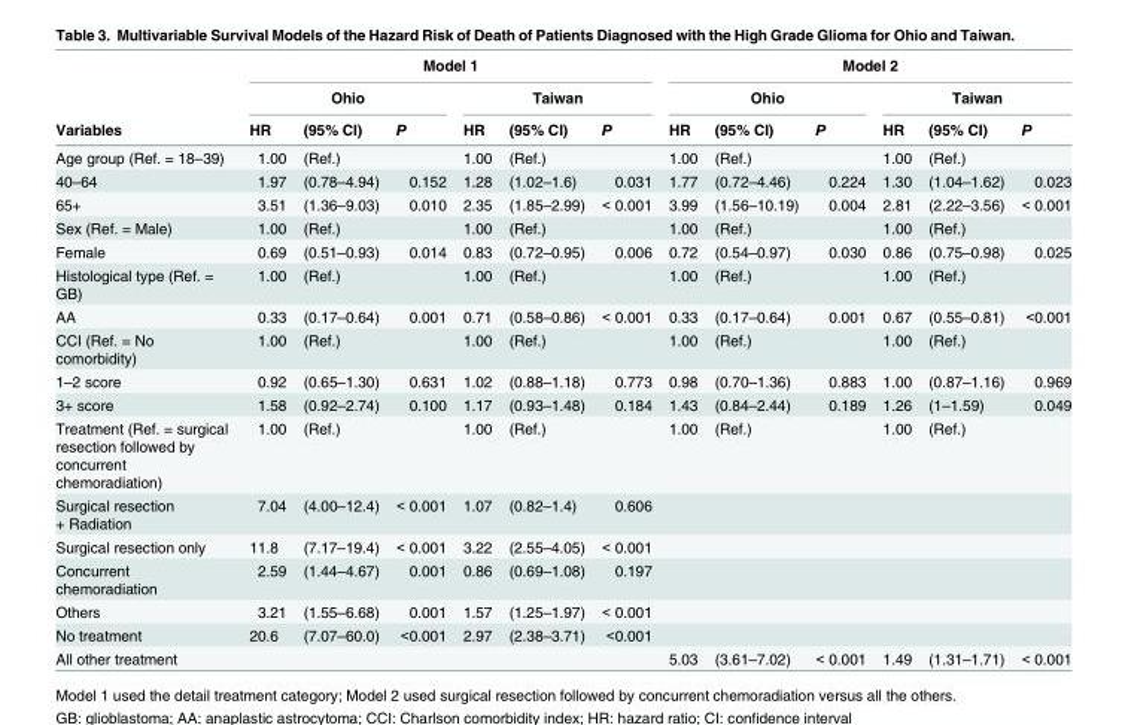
<table><thead><tr><td rowspan="3">Variables</td><td colspan="6">Model 1</td><td colspan="6">Model 2</td></tr><tr><td colspan="3">Ohio</td><td colspan="3">Taiwan</td><td colspan="3">Ohio</td><td colspan="3">Taiwan</td></tr><tr><td>HR</td><td>(95% CI)</td><td>P</td><td>HR</td><td>(95% CI)</td><td>P</td><td>HR</td><td>(95% CI)</td><td>P</td><td>HR</td><td>(95% CI)</td><td>P</td></tr></thead><tbody><tr><td>Age group (Ref. = 18–39)</td><td>1.00</td><td>(Ref.)</td><td></td><td>1.00</td><td>(Ref.)</td><td></td><td>1.00</td><td>(Ref.)</td><td></td><td>1.00</td><td>(Ref.)</td><td></td></tr><tr><td>40–64</td><td>1.97</td><td>(0.78–4.94)</td><td>0.152</td><td>1.28</td><td>(1.02–1.6)</td><td>0.031</td><td>1.77</td><td>(0.72–4.46)</td><td>0.224</td><td>1.30</td><td>(1.04–1.62)</td><td>0.023</td></tr><tr><td>65+</td><td>3.51</td><td>(1.36–9.03)</td><td>0.010</td><td>2.35</td><td>(1.85–2.99)</td><td>&lt; 0.001</td><td>3.99</td><td>(1.56–10.19)</td><td>0.004</td><td>2.81</td><td>(2.22–3.56)</td><td>&lt; 0.001</td></tr><tr><td>Sex (Ref. = Male)</td><td>1.00</td><td>(Ref.)</td><td></td><td>1.00</td><td>(Ref.)</td><td></td><td>1.00</td><td>(Ref.)</td><td></td><td>1.00</td><td>(Ref.)</td><td></td></tr><tr><td>Female</td><td>0.69</td><td>(0.51–0.93)</td><td>0.014</td><td>0.83</td><td>(0.72–0.95)</td><td>0.006</td><td>0.72</td><td>(0.54–0.97)</td><td>0.030</td><td>0.86</td><td>(0.75–0.98)</td><td>0.025</td></tr><tr><td>Histological type (Ref. = GB)</td><td>1.00</td><td>(Ref.)</td><td></td><td>1.00</td><td>(Ref.)</td><td></td><td>1.00</td><td>(Ref.)</td><td></td><td>1.00</td><td>(Ref.)</td><td></td></tr><tr><td>AA</td><td>0.33</td><td>(0.17–0.64)</td><td>0.001</td><td>0.71</td><td>(0.58–0.86)</td><td>&lt; 0.001</td><td>0.33</td><td>(0.17–0.64)</td><td>0.001</td><td>0.67</td><td>(0.55–0.81)</td><td>&lt;0.001</td></tr><tr><td>CCI (Ref. = No comorbidity)</td><td>1.00</td><td>(Ref.)</td><td></td><td>1.00</td><td>(Ref.)</td><td></td><td>1.00</td><td>(Ref.)</td><td></td><td>1.00</td><td>(Ref.)</td><td></td></tr><tr><td>1–2 score</td><td>0.92</td><td>(0.65–1.30)</td><td>0.631</td><td>1.02</td><td>(0.88–1.18)</td><td>0.773</td><td>0.98</td><td>(0.70–1.36)</td><td>0.883</td><td>1.00</td><td>(0.87–1.16)</td><td>0.969</td></tr><tr><td>3+ score</td><td>1.58</td><td>(0.92–2.74)</td><td>0.100</td><td>1.17</td><td>(0.93–1.48)</td><td>0.184</td><td>1.43</td><td>(0.84–2.44)</td><td>0.189</td><td>1.26</td><td>(1–1.59)</td><td>0.049</td></tr><tr><td>Treatment (Ref. = surgical resection followed by concurrent chemoradiation)</td><td>1.00</td><td>(Ref.)</td><td></td><td>1.00</td><td>(Ref.)</td><td></td><td>1.00</td><td>(Ref.)</td><td></td><td>1.00</td><td>(Ref.)</td><td></td></tr><tr><td>Surgical resection + Radiation</td><td>7.04</td><td>(4.00–12.4)</td><td>&lt; 0.001</td><td>1.07</td><td>(0.82–1.4)</td><td>0.606</td><td></td><td></td><td></td><td></td><td></td><td></td></tr><tr><td>Surgical resection only</td><td>11.8</td><td>(7.17–19.4)</td><td>&lt; 0.001</td><td>3.22</td><td>(2.55–4.05)</td><td>&lt; 0.001</td><td></td><td></td><td></td><td></td><td></td><td></td></tr><tr><td>Concurrent chemoradiation</td><td>2.59</td><td>(1.44–4.67)</td><td>0.001</td><td>0.86</td><td>(0.69–1.08)</td><td>0.197</td><td></td><td></td><td></td><td></td><td></td><td></td></tr><tr><td>Others</td><td>3.21</td><td>(1.55–6.68)</td><td>0.001</td><td>1.57</td><td>(1.25–1.97)</td><td>&lt; 0.001</td><td></td><td></td><td></td><td></td><td></td><td></td></tr><tr><td>No treatment</td><td>20.6</td><td>(7.07–60.0)</td><td>&lt;0.001</td><td>2.97</td><td>(2.38–3.71)</td><td>&lt;0.001</td><td></td><td></td><td></td><td></td><td></td><td></td></tr><tr><td>All other treatment</td><td></td><td></td><td></td><td></td><td></td><td></td><td>5.03</td><td>(3.61–7.02)</td><td>&lt; 0.001</td><td>1.49</td><td>(1.31–1.71)</td><td>&lt; 0.001</td></tr></tbody></table>